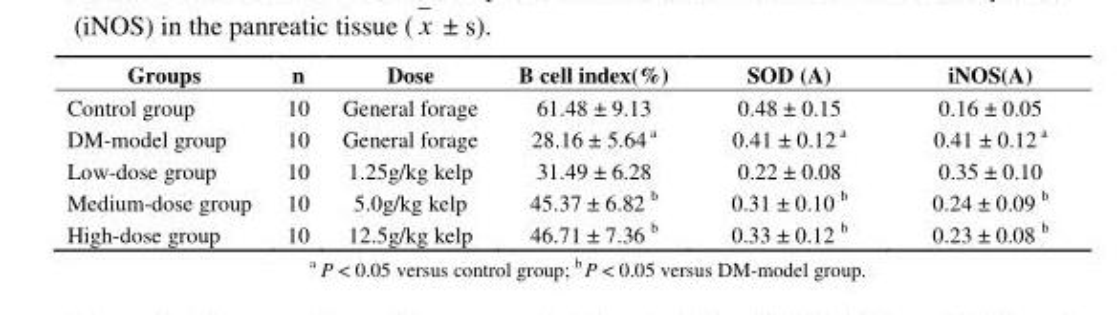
<table><thead><tr><td>Groups</td><td>n</td><td>Dose</td><td>B cell index(%)</td><td>SOD (A)</td><td>iNOS(A)</td></tr></thead><tbody><tr><td>Control group</td><td>10</td><td>General forage</td><td>61.48 ± 9.13</td><td>0.48 ± 0.15</td><td>0.16 ± 0.05</td></tr><tr><td>DM-model group</td><td>10</td><td>General forage</td><td>28.16 ± 5.64 a</td><td>0.41 ± 0.12 a</td><td>0.41 ± 0.12 a</td></tr><tr><td>Low-dose group</td><td>10</td><td>1.25g/kg kelp</td><td>31.49 ± 6.28</td><td>0.22 ± 0.08</td><td>0.35 ± 0.10</td></tr><tr><td>Medium-dose group</td><td>10</td><td>5.0g/kg kelp</td><td>45.37 ± 6.82 b</td><td>0.31 ± 0.10 b</td><td>0.24 ± 0.09 b</td></tr><tr><td>High-dose group</td><td>10</td><td>12.5g/kg kelp</td><td>46.71 ± 7.36 b</td><td>0.33 ± 0.12 b</td><td>0.23 ± 0.08 b</td></tr></tbody></table>